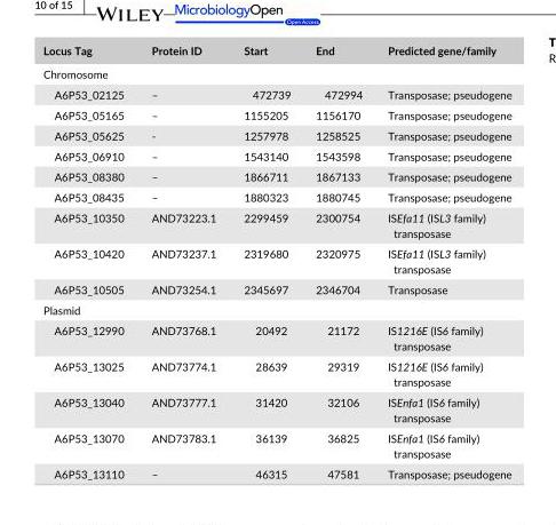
<table><thead><tr><td>Locus Tag</td><td>Protein ID</td><td>Start</td><td>End</td><td>Predicted gene/family</td></tr></thead><tbody><tr><td colspan="5">Chromosome</td></tr><tr><td>A6P53_02125</td><td>–</td><td>472739</td><td>472994</td><td>Transposase; pseudogene</td></tr><tr><td>A6P53_05165</td><td>–</td><td>1155205</td><td>1156170</td><td>Transposase; pseudogene</td></tr><tr><td>A6P53_05625</td><td>-</td><td>1257978</td><td>1258525</td><td>Transposase; pseudogene</td></tr><tr><td>A6P53_06910</td><td>–</td><td>1543140</td><td>1543598</td><td>Transposase; pseudogene</td></tr><tr><td>A6P53_08380</td><td>–</td><td>1866711</td><td>1867133</td><td>Transposase; pseudogene</td></tr><tr><td>A6P53_08435</td><td>–</td><td>1880323</td><td>1880745</td><td>Transposase; pseudogene</td></tr><tr><td>A6P53_10350</td><td>AND73223.1</td><td>2299459</td><td>2300754</td><td>ISEfa11 (ISL3 family) transposase</td></tr><tr><td>A6P53_10420</td><td>AND73237.1</td><td>2319680</td><td>2320975</td><td>ISEfa11 (ISL3 family) transposase</td></tr><tr><td>A6P53_10505</td><td>AND73254.1</td><td>2345697</td><td>2346704</td><td>Transposase</td></tr><tr><td colspan="5">Plasmid</td></tr><tr><td>A6P53_12990</td><td>AND73768.1</td><td>20492</td><td>21172</td><td>IS1216E (IS6 family) transposase</td></tr><tr><td>A6P53_13025</td><td>AND73774.1</td><td>28639</td><td>29319</td><td>IS1216E (IS6 family) transposase</td></tr><tr><td>A6P53_13040</td><td>AND73777.1</td><td>31420</td><td>32106</td><td>ISEnfa1 (IS6 family) transposase</td></tr><tr><td>A6P53_13070</td><td>AND73783.1</td><td>36139</td><td>36825</td><td>ISEnfa1 (IS6 family) transposase</td></tr><tr><td>A6P53_13110</td><td>–</td><td>46315</td><td>47581</td><td>Transposase; pseudogene</td></tr></tbody></table>